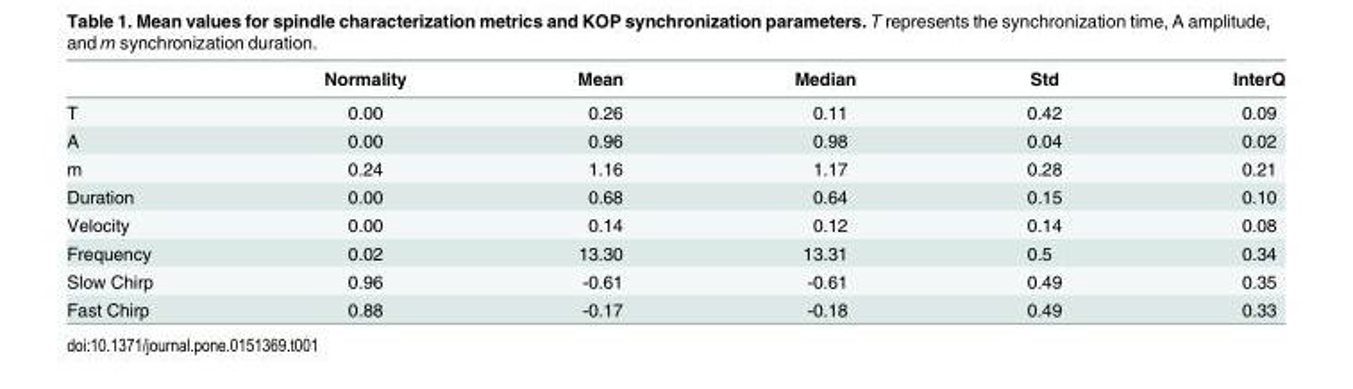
<table><thead><tr><td></td><td>Normality</td><td>Mean</td><td>Median</td><td>Std</td><td>InterQ</td></tr></thead><tbody><tr><td>T</td><td>0.00</td><td>0.26</td><td>0.11</td><td>0.42</td><td>0.09</td></tr><tr><td>A</td><td>0.00</td><td>0.96</td><td>0.98</td><td>0.04</td><td>0.02</td></tr><tr><td>m</td><td>0.24</td><td>1.16</td><td>1.17</td><td>0.28</td><td>0.21</td></tr><tr><td>Duration</td><td>0.00</td><td>0.68</td><td>0.64</td><td>0.15</td><td>0.10</td></tr><tr><td>Velocity</td><td>0.00</td><td>0.14</td><td>0.12</td><td>0.14</td><td>0.08</td></tr><tr><td>Frequency</td><td>0.02</td><td>13.30</td><td>13.31</td><td>0.5</td><td>0.34</td></tr><tr><td>Slow Chirp</td><td>0.96</td><td>-0.61</td><td>-0.61</td><td>0.49</td><td>0.35</td></tr><tr><td>Fast Chirp</td><td>0.88</td><td>-0.17</td><td>-0.18</td><td>0.49</td><td>0.33</td></tr></tbody></table>